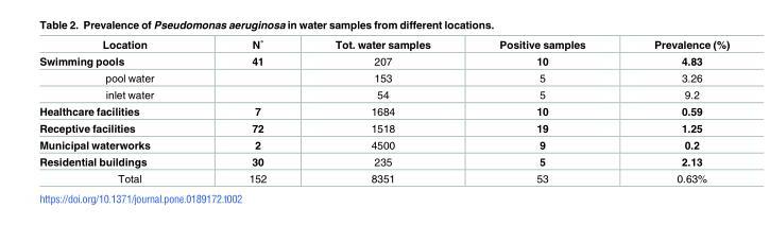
<table><thead><tr><td>Location</td><td>N˚</td><td>Tot. water samples</td><td>Positive samples</td><td>Prevalence (%)</td></tr></thead><tbody><tr><td>Swimming pools</td><td>41</td><td>207</td><td>10</td><td>4.83</td></tr><tr><td>pool water</td><td></td><td>153</td><td>5</td><td>3.26</td></tr><tr><td>inlet water</td><td></td><td>54</td><td>5</td><td>9.2</td></tr><tr><td>Healthcare facilities</td><td>7</td><td>1684</td><td>10</td><td>0.59</td></tr><tr><td>Receptive facilities</td><td>72</td><td>1518</td><td>19</td><td>1.25</td></tr><tr><td>Municipal waterworks</td><td>2</td><td>4500</td><td>9</td><td>0.2</td></tr><tr><td>Residential buildings</td><td>30</td><td>235</td><td>5</td><td>2.13</td></tr><tr><td>Total</td><td>152</td><td>8351</td><td>53</td><td>0.63%</td></tr></tbody></table>